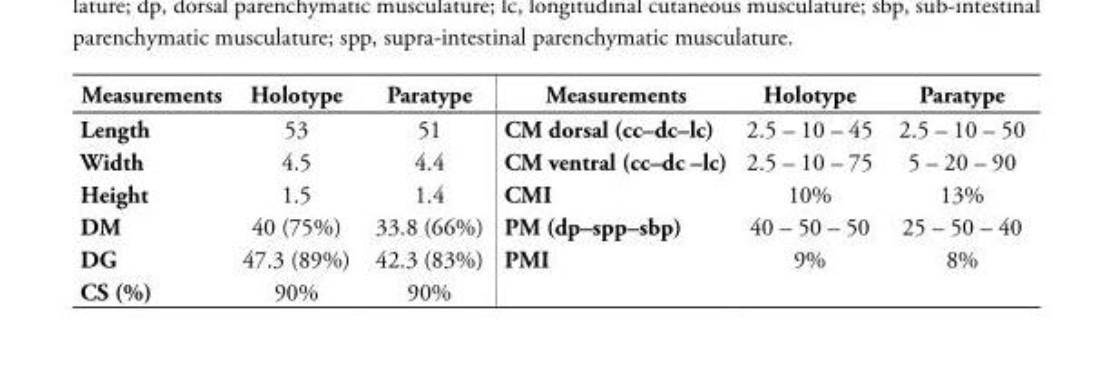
<table><thead><tr><td>Measurements</td><td>Holotype</td><td>Paratype</td><td>Measurements</td><td>Holotype</td><td>Paratype</td></tr></thead><tbody><tr><td>Length</td><td>53</td><td>51</td><td>CM dorsal (cc–dc–lc)</td><td>2.5 – 10 – 45</td><td>2.5 – 10 – 50</td></tr><tr><td>Width</td><td>4.5</td><td>4.4</td><td>CM ventral (cc–dc –lc)</td><td>2.5 – 10 – 75</td><td>5 – 20 – 90</td></tr><tr><td>Height</td><td>1.5</td><td>1.4</td><td>CMI</td><td>10%</td><td>13%</td></tr><tr><td>DM</td><td>40 (75%)</td><td>33.8 (66%)</td><td>PM (dp–spp–sbp)</td><td>40 – 50 – 50</td><td>25 – 50 – 40</td></tr><tr><td>DG</td><td>47.3 (89%)</td><td>42.3 (83%)</td><td>PMI</td><td>9%</td><td>8%</td></tr><tr><td>CS (%)</td><td>90%</td><td>90%</td><td></td><td></td><td></td></tr></tbody></table>